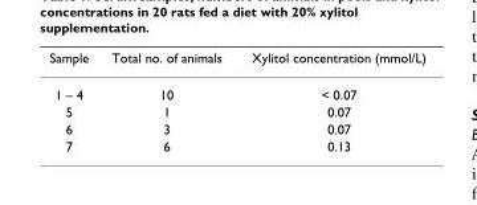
<table><thead><tr><td>Sample</td><td>Total no. of animals</td><td>Xylitol concentration (mmol/L)</td></tr></thead><tbody><tr><td>1 – 4</td><td>10</td><td>&lt; 0.07</td></tr><tr><td>5</td><td>1</td><td>0.07</td></tr><tr><td>6</td><td>3</td><td>0.07</td></tr><tr><td>7</td><td>6</td><td>0.13</td></tr></tbody></table>